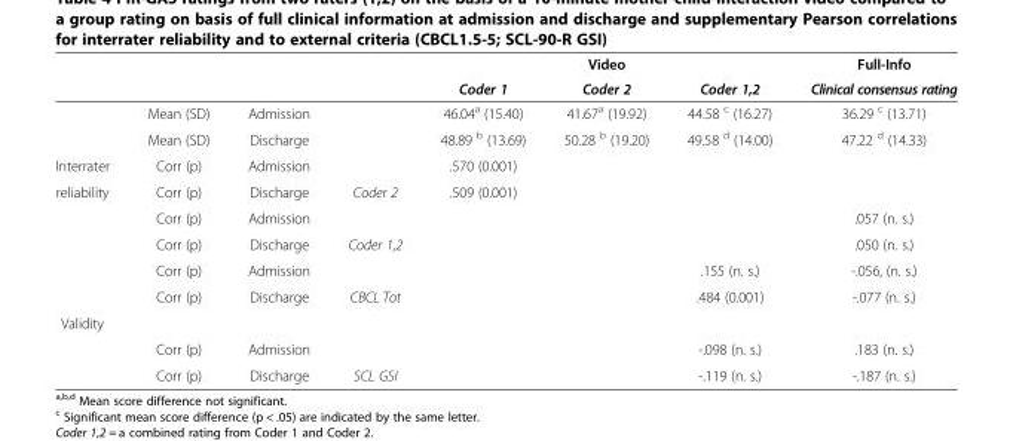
<table><thead><tr><td rowspan="2"></td><td rowspan="2"></td><td rowspan="2"></td><td rowspan="2"></td><td rowspan="2">Coder 1</td><td rowspan="2">Video Coder 2</td><td rowspan="2">Coder 1,2</td><td rowspan="2">Full-Info Clinical consensus rating</td></tr><tr></tr></thead><tbody><tr><td></td><td>Mean (SD)</td><td>Admission</td><td></td><td>46.04<sup>a</sup> (15.40)</td><td>41.67<sup>a</sup> (19.92)</td><td>44.58 <sup>c</sup> (16.27)</td><td>36.29 <sup>c</sup> (13.71)</td></tr><tr><td></td><td>Mean (SD)</td><td>Discharge</td><td></td><td>48.89 <sup>b</sup> (13.69)</td><td>50.28 <sup>b</sup> (19.20)</td><td>49.58 <sup>d</sup> (14.00)</td><td>47.22 <sup>d</sup> (14.33)</td></tr><tr><td>Interrater</td><td>Corr (p)</td><td>Admission</td><td></td><td>.570 (0.001)</td><td></td><td></td><td></td></tr><tr><td rowspan="5">reliability</td><td>Corr (p)</td><td>Discharge</td><td>Coder 2</td><td>.509 (0.001)</td><td></td><td></td><td></td></tr><tr><td>Corr (p)</td><td>Admission</td><td></td><td></td><td></td><td></td><td>.057 (n. s.)</td></tr><tr><td>Corr (p)</td><td>Discharge</td><td>Coder 1,2</td><td></td><td></td><td></td><td>.050 (n. s.)</td></tr><tr><td>Corr (p)</td><td>Admission</td><td></td><td></td><td></td><td>.155 (n. s.)</td><td>-.056, (n. s.)</td></tr><tr><td>Corr (p)</td><td>Discharge</td><td>CBCL Tot</td><td></td><td></td><td>.484 (0.001)</td><td>-.077 (n. s.)</td></tr><tr><td colspan="8">Validity</td></tr><tr><td></td><td>Corr (p)</td><td>Admission</td><td></td><td></td><td></td><td>-.098 (n. s.)</td><td>.183 (n. s.)</td></tr><tr><td></td><td>Corr (p)</td><td>Discharge</td><td>SCL GSI</td><td></td><td></td><td>-.119 (n. s.)</td><td>-.187 (n. s.)</td></tr></tbody></table>